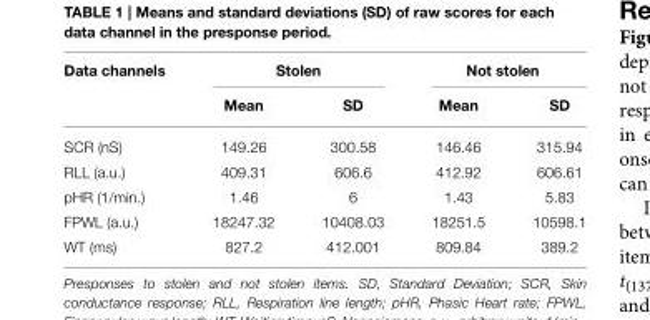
<table><thead><tr><td rowspan="2">Data channels</td><td colspan="2">Stolen</td><td colspan="2">Not stolen</td></tr><tr><td>Mean</td><td>SD</td><td>Mean</td><td>SD</td></tr></thead><tbody><tr><td>SCR (nS)</td><td>149.26</td><td>300.58</td><td>146.46</td><td>315.94</td></tr><tr><td>RLL (a.u.)</td><td>409.31</td><td>606.6</td><td>412.92</td><td>606.61</td></tr><tr><td>pHR (1/min.)</td><td>1.46</td><td>6</td><td>1.43</td><td>5.83</td></tr><tr><td>FPWL (a.u.)</td><td>18247.32</td><td>10408.03</td><td>18251.5</td><td>10598.1</td></tr><tr><td>WT (ms)</td><td>827.2</td><td>412.001</td><td>809.84</td><td>389.2</td></tr></tbody></table>